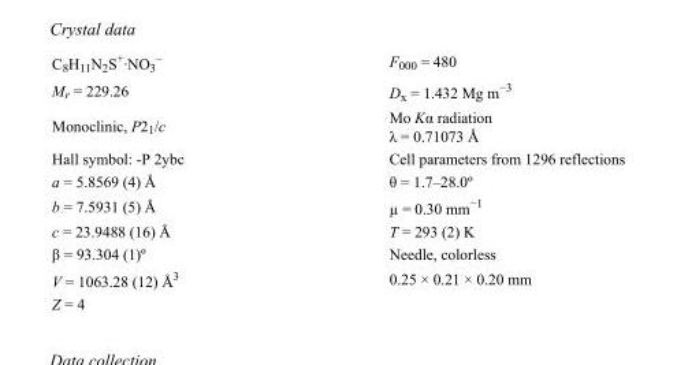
<table><tbody><tr><td>C<sub>8</sub>H<sub>11</sub>N<sub>2</sub>S<sup>+</sup>·NO<sub>3</sub> <sup>–</sup></td><td>F<sub>000</sub> = 480</td></tr><tr><td>M<sub>r</sub> = 229.26</td><td>D<sub>x</sub> = 1.432 Mg m<sup>−3</sup></td></tr><tr><td>Monoclinic, P2<sub>1</sub>/c</td><td>Mo Kα radiation λ = 0.71073 Å</td></tr><tr><td>Hall symbol: -P 2ybc</td><td>Cell parameters from 1296 reflections</td></tr><tr><td>a = 5.8569 (4) Å</td><td>θ = 1.7–28.0º</td></tr><tr><td>b = 7.5931 (5) Å</td><td>µ = 0.30 mm<sup>−1</sup></td></tr><tr><td>c = 23.9488 (16) Å</td><td>T = 293 (2) K</td></tr><tr><td>β = 93.304 (1)º</td><td>Needle, colorless</td></tr><tr><td>V = 1063.28 (12) Å<sup>3</sup></td><td>0.25 × 0.21 × 0.20 mm</td></tr><tr><td>Z = 4</td><td></td></tr></tbody></table>